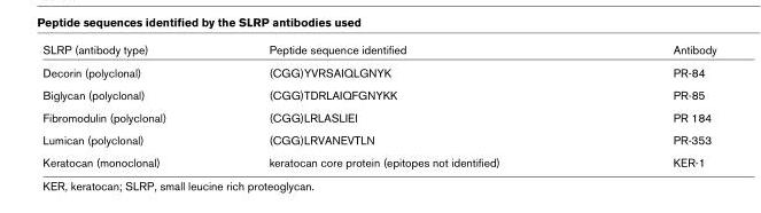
<table><thead><tr><td>SLRP (antibody type)</td><td>Peptide sequence identified</td><td>Antibody</td></tr></thead><tbody><tr><td>Decorin (polyclonal)</td><td>(CGG)YVRSAIQLGNYK</td><td>PR-84</td></tr><tr><td>Biglycan (polyclonal)</td><td>(CGG)TDRLAIQFGNYKK</td><td>PR-85</td></tr><tr><td>Fibromodulin (polyclonal)</td><td>(CGG)LRLASLIEI</td><td>PR 184</td></tr><tr><td>Lumican (polyclonal)</td><td>(CGG)LRVANEVTLN</td><td>PR-353</td></tr><tr><td>Keratocan (monoclonal)</td><td>keratocan core protein (epitopes not identified)</td><td>KER-1</td></tr></tbody></table>